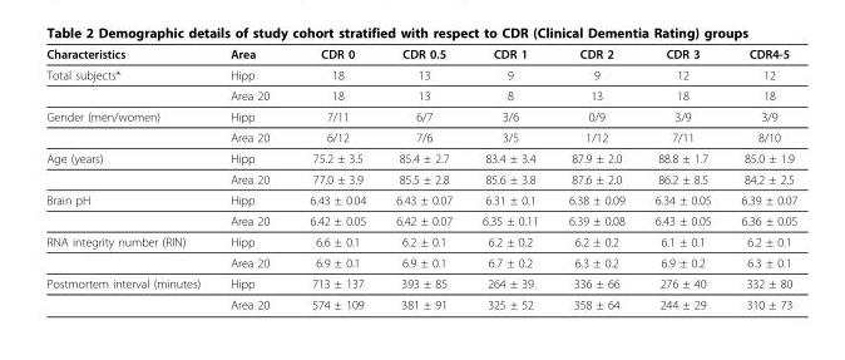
<table><thead><tr><td>Characteristics</td><td>Area</td><td>CDR 0</td><td>CDR 0.5</td><td>CDR 1</td><td>CDR 2</td><td>CDR 3</td><td>CDR4-5</td></tr></thead><tbody><tr><td rowspan="2">Total subjects*</td><td>Hipp</td><td>18</td><td>13</td><td>9</td><td>9</td><td>12</td><td>12</td></tr><tr><td>Area 20</td><td>18</td><td>13</td><td>8</td><td>13</td><td>18</td><td>18</td></tr><tr><td rowspan="2">Gender (men/women)</td><td>Hipp</td><td>7/11</td><td>6/7</td><td>3/6</td><td>0/9</td><td>3/9</td><td>3/9</td></tr><tr><td>Area 20</td><td>6/12</td><td>7/6</td><td>3/5</td><td>1/12</td><td>7/11</td><td>8/10</td></tr><tr><td rowspan="2">Age (years)</td><td>Hipp</td><td>75.2 ± 3.5</td><td>85.4 ± 2.7</td><td>83.4 ± 3.4</td><td>87.9 ± 2.0</td><td>88.8 ± 1.7</td><td>85.0 ± 1.9</td></tr><tr><td>Area 20</td><td>77.0 ± 3.9</td><td>85.5 ± 2.8</td><td>85.6 ± 3.8</td><td>87.6 ± 2.0</td><td>86.2 ± 8.5</td><td>84.2 ± 2.5</td></tr><tr><td rowspan="2">Brain pH</td><td>Hipp</td><td>6.43 ± 0.04</td><td>6.43 ± 0.07</td><td>6.31 ± 0.1</td><td>6.38 ± 0.09</td><td>6.34 ± 0.05</td><td>6.39 ± 0.07</td></tr><tr><td>Area 20</td><td>6.42 ± 0.05</td><td>6.42 ± 0.07</td><td>6.35 ± 0.11</td><td>6.39 ± 0.08</td><td>6.43 ± 0.05</td><td>6.36 ± 0.05</td></tr><tr><td rowspan="2">RNA integrity number (RIN)</td><td>Hipp</td><td>6.6 ± 0.1</td><td>6.2 ± 0.1</td><td>6.2 ± 0.2</td><td>6.2 ± 0.2</td><td>6.1 ± 0.1</td><td>6.2 ± 0.1</td></tr><tr><td>Area 20</td><td>6.9 ± 0.1</td><td>6.9 ± 0.1</td><td>6.7 ± 0.2</td><td>6.3 ± 0.2</td><td>6.9 ± 0.2</td><td>6.3 ± 0.1</td></tr><tr><td rowspan="2">Postmortem interval (minutes)</td><td>Hipp</td><td>713 ± 137</td><td>393 ± 85</td><td>264 ± 39</td><td>336 ± 66</td><td>276 ± 40</td><td>332 ± 80</td></tr><tr><td>Area 20</td><td>574 ± 109</td><td>381 ± 91</td><td>325 ± 52</td><td>358 ± 64</td><td>244 ± 29</td><td>310 ± 73</td></tr></tbody></table>